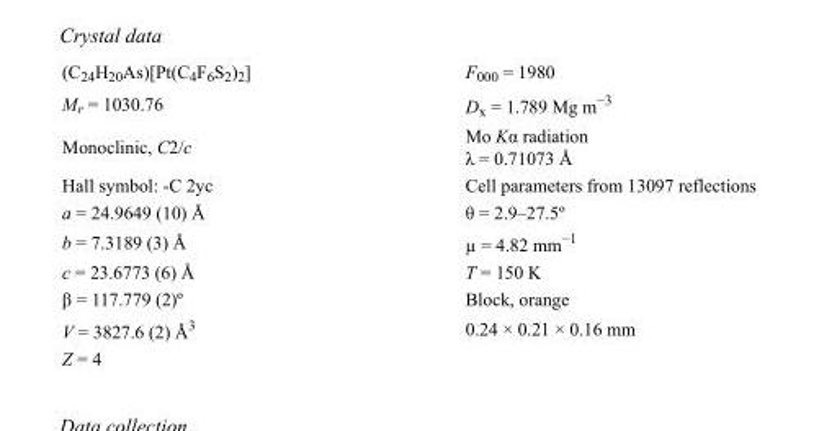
<table><tbody><tr><td>(C<sub>24</sub>H<sub>20</sub>As)[Pt(C<sub>4</sub>F<sub>6</sub>S<sub>2</sub>)<sub>2</sub>]</td><td>F000 = 1980</td></tr><tr><td>M<sub>r</sub> = 1030.76</td><td>D<sub>x</sub> = 1.789 Mg m<sup>−3</sup></td></tr><tr><td>Monoclinic, C2/c</td><td>Mo Kα radiation λ = 0.71073 Å</td></tr><tr><td>Hall symbol: -C 2yc</td><td>Cell parameters from 13097 reflections</td></tr><tr><td>a = 24.9649 (10) Å</td><td>θ = 2.9–27.5º</td></tr><tr><td>b = 7.3189 (3) Å</td><td>µ = 4.82 mm<sup>−1</sup></td></tr><tr><td>c = 23.6773 (6) Å</td><td>T = 150 K</td></tr><tr><td>β = 117.779 (2)º</td><td>Block, orange</td></tr><tr><td>V = 3827.6 (2) Å<sup>3</sup></td><td>0.24 × 0.21 × 0.16 mm</td></tr><tr><td>Z = 4</td><td></td></tr></tbody></table>